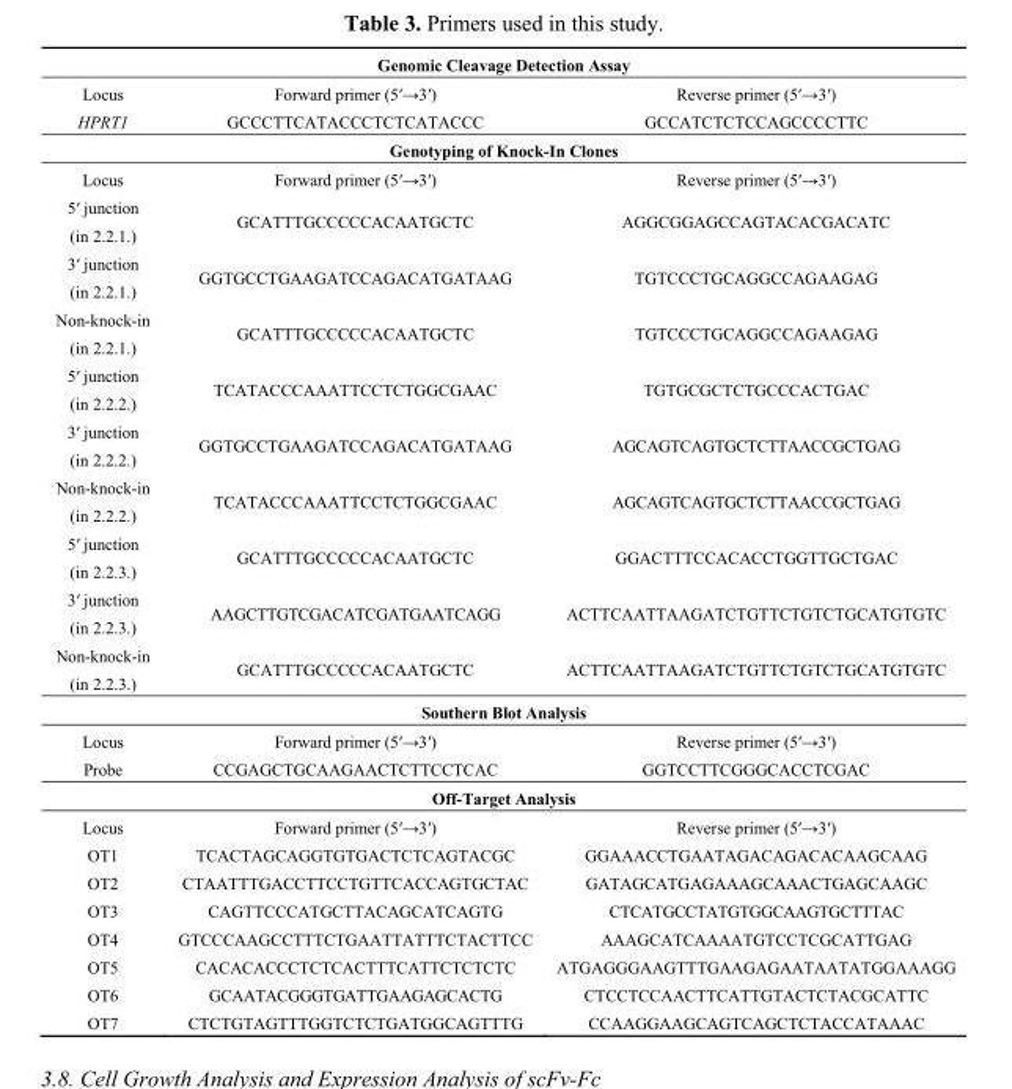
<table><thead><tr><td colspan="3">Genomic Cleavage Detection Assay</td></tr><tr><td>Locus</td><td>Forward primer (5′→3′)</td><td>Reverse primer (5′→3′)</td></tr></thead><tbody><tr><td>HPRT1</td><td>GCCCTTCATACCCTCTCATACCC</td><td>GCCATCTCTCCAGCCCCTTC</td></tr><tr><td colspan="3">Genotyping of Knock-In Clones</td></tr><tr><td>Locus</td><td>Forward primer (5′→3′)</td><td>Reverse primer (5′→3′)</td></tr><tr><td>5′ junction (in 2.2.1.)</td><td>GCATTTGCCCCCACAATGCTC</td><td>AGGCGGAGCCAGTACACGACATC</td></tr><tr><td>3′ junction (in 2.2.1.)</td><td>GGTGCCTGAAGATCCAGACATGATAAG</td><td>TGTCCCTGCAGGCCAGAAGAG</td></tr><tr><td>Non-knock-in (in 2.2.1.)</td><td>GCATTTGCCCCCACAATGCTC</td><td>TGTCCCTGCAGGCCAGAAGAG</td></tr><tr><td>5′ junction (in 2.2.2.)</td><td>TCATACCCAAATTCCTCTGGCGAAC</td><td>TGTGCGCTCTGCCCACTGAC</td></tr><tr><td>3′ junction (in 2.2.2.)</td><td>GGTGCCTGAAGATCCAGACATGATAAG</td><td>AGCAGTCAGTGCTCTTAACCGCTGAG</td></tr><tr><td>Non-knock-in (in 2.2.2.)</td><td>TCATACCCAAATTCCTCTGGCGAAC</td><td>AGCAGTCAGTGCTCTTAACCGCTGAG</td></tr><tr><td>5′ junction (in 2.2.3.)</td><td>GCATTTGCCCCCACAATGCTC</td><td>GGACTTTCCACACCTGGTTGCTGAC</td></tr><tr><td>3′ junction (in 2.2.3.)</td><td>AAGCTTGTCGACATCGATGAATCAGG</td><td>ACTTCAATTAAGATCTGTTCTGTCTGCATGTGTC</td></tr><tr><td>Non-knock-in (in 2.2.3.)</td><td>GCATTTGCCCCCACAATGCTC</td><td>ACTTCAATTAAGATCTGTTCTGTCTGCATGTGTC</td></tr><tr><td colspan="3">Southern Blot Analysis</td></tr><tr><td>Locus</td><td>Forward primer (5′→3′)</td><td>Reverse primer (5′→3′)</td></tr><tr><td>Probe</td><td>CCGAGCTGCAAGAACTCTTCCTCAC</td><td>GGTCCTTCGGGCACCTCGAC</td></tr><tr><td colspan="3">Off-Target Analysis</td></tr><tr><td>Locus</td><td>Forward primer (5′→3′)</td><td>Reverse primer (5′→3′)</td></tr><tr><td>OT1</td><td>TCACTAGCAGGTGTGACTCTCAGTACGC</td><td>GGAAACCTGAATAGACAGACACAAGCAAG</td></tr><tr><td>OT2</td><td>CTAATTTGACCTTCCTGTTCACCAGTGCTAC</td><td>GATAGCATGAGAAAGCAAACTGAGCAAGC</td></tr><tr><td>OT3</td><td>CAGTTCCCATGCTTACAGCATCAGTG</td><td>CTCATGCCTATGTGGCAAGTGCTTTAC</td></tr><tr><td>OT4</td><td>GTCCCAAGCCTTTCTGAATTATTTCTACTTCC</td><td>AAAGCATCAAAATGTCCTCGCATTGAG</td></tr><tr><td>OT5</td><td>CACACACCCTCTCACTTTCATTCTCTCTC</td><td>ATGAGGGAAGTTTGAAGAGAATAATATGGAAAGG</td></tr><tr><td>OT6</td><td>GCAATACGGGTGATTGAAGAGCACTG</td><td>CTCCTCCAACTTCATTGTACTCTACGCATTC</td></tr><tr><td>OT7</td><td>CTCTGTAGTTTGGTCTCTGATGGCAGTTTG</td><td>CCAAGGAAGCAGTCAGCTCTACCATAAAC</td></tr></tbody></table>